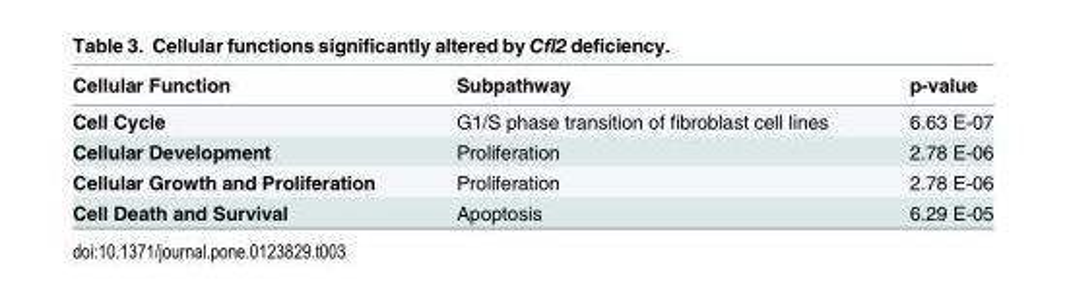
<table><thead><tr><td>Cellular Function</td><td>Subpathway</td><td>p-value</td></tr></thead><tbody><tr><td>Cell Cycle</td><td>G1/S phase transition of fibroblast cell lines</td><td>6.63 E-07</td></tr><tr><td>Cellular Development</td><td>Proliferation</td><td>2.78 E-06</td></tr><tr><td>Cellular Growth and Proliferation</td><td>Proliferation</td><td>2.78 E-06</td></tr><tr><td>Cell Death and Survival</td><td>Apoptosis</td><td>6.29 E-05</td></tr></tbody></table>